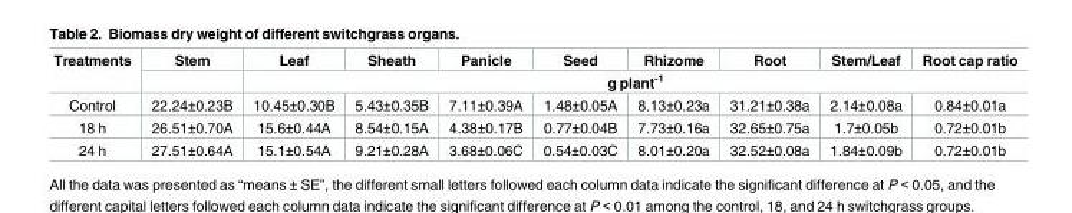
<table><thead><tr><td rowspan="2">Treatments</td><td rowspan="2">Stem</td><td>Leaf</td><td>Sheath</td><td>Panicle</td><td>Seed</td><td>Rhizome</td><td>Root</td><td>Stem/Leaf</td><td>Root cap ratio</td></tr><tr><td colspan="8">g plant<sup>-1</sup></td></tr></thead><tbody><tr><td>Control</td><td>22.24±0.23B</td><td>10.45±0.30B</td><td>5.43±0.35B</td><td>7.11±0.39A</td><td>1.48±0.05A</td><td>8.13±0.23a</td><td>31.21±0.38a</td><td>2.14±0.08a</td><td>0.84±0.01a</td></tr><tr><td>18 h</td><td>26.51±0.70A</td><td>15.6±0.44A</td><td>8.54±0.15A</td><td>4.38±0.17B</td><td>0.77±0.04B</td><td>7.73±0.16a</td><td>32.65±0.75a</td><td>1.7±0.05b</td><td>0.72±0.01b</td></tr><tr><td>24 h</td><td>27.51±0.64A</td><td>15.1±0.54A</td><td>9.21±0.28A</td><td>3.68±0.06C</td><td>0.54±0.03C</td><td>8.01±0.20a</td><td>32.52±0.08a</td><td>1.84±0.09b</td><td>0.72±0.01b</td></tr></tbody></table>